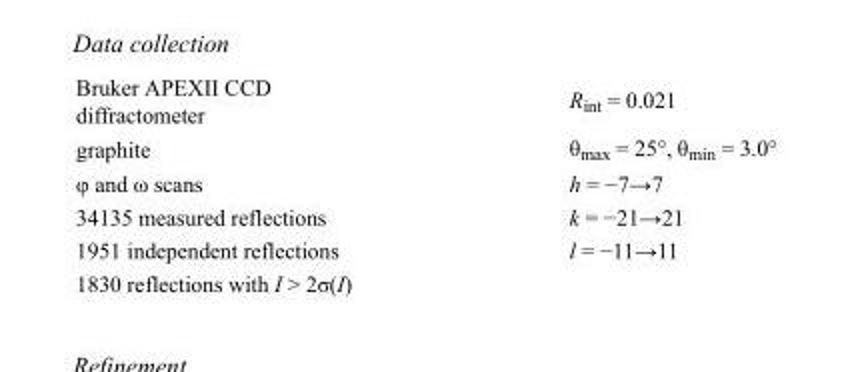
<table><tbody><tr><td>Bruker APEXII CCD diffractometer</td><td>R<sub>int</sub> = 0.021</td></tr><tr><td>graphite</td><td>θ<sub>max</sub> = 25°, θ<sub>min</sub> = 3.0°</td></tr><tr><td>φ and ω scans</td><td>h = −7→7</td></tr><tr><td>34135 measured reflections</td><td>k = −21→21</td></tr><tr><td>1951 independent reflections</td><td>l = −11→11</td></tr><tr><td>1830 reflections with I &gt; 2σ(I)</td><td></td></tr></tbody></table>